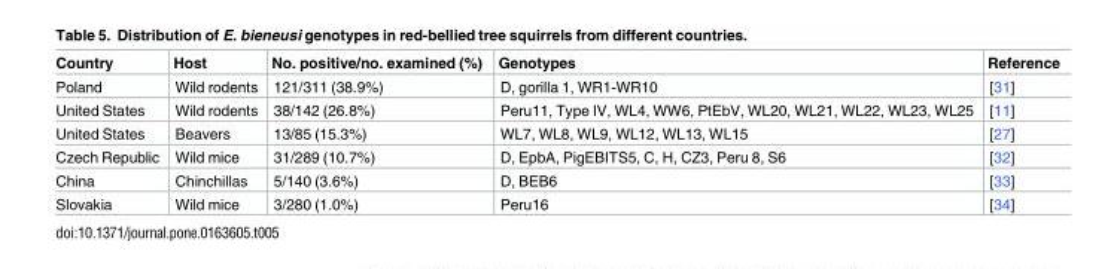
<table><thead><tr><td>Country</td><td>Host</td><td>No. positive/no. examined (%)</td><td>Genotypes</td><td>Reference</td></tr></thead><tbody><tr><td>Poland</td><td>Wild rodents</td><td>121/311 (38.9%)</td><td>D, gorilla 1, WR1-WR10</td><td>[31]</td></tr><tr><td>United States</td><td>Wild rodents</td><td>38/142 (26.8%)</td><td>Peru11, Type IV, WL4, WW6, PtEbV, WL20, WL21, WL22, WL23, WL25</td><td>[11]</td></tr><tr><td>United States</td><td>Beavers</td><td>13/85 (15.3%)</td><td>WL7, WL8, WL9, WL12, WL13, WL15</td><td>[27]</td></tr><tr><td>Czech Republic</td><td>Wild mice</td><td>31/289 (10.7%)</td><td>D, EpbA, PigEBITS5, C, H, CZ3, Peru 8, S6</td><td>[32]</td></tr><tr><td>China</td><td>Chinchillas</td><td>5/140 (3.6%)</td><td>D, BEB6</td><td>[33]</td></tr><tr><td>Slovakia</td><td>Wild mice</td><td>3/280 (1.0%)</td><td>Peru16</td><td>[34]</td></tr></tbody></table>